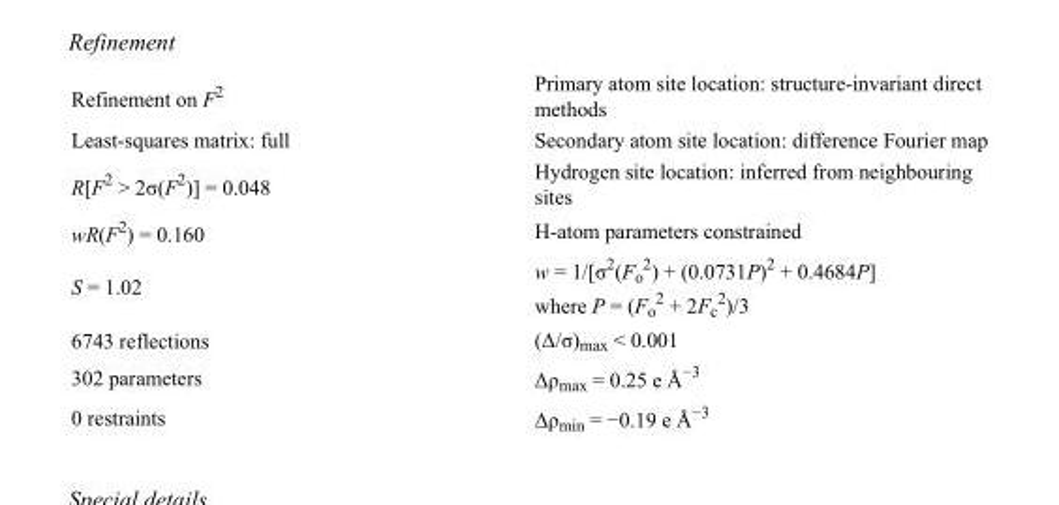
<table><tbody><tr><td>Refinement on F<sup>2</sup></td><td>Primary atom site location: structure-invariant direct methods</td></tr><tr><td>Least-squares matrix: full</td><td>Secondary atom site location: difference Fourier map</td></tr><tr><td>R[F<sup>2</sup> &gt; 2σ(F<sup>2</sup>)] = 0.048</td><td>Hydrogen site location: inferred from neighbouring sites</td></tr><tr><td>wR(F<sup>2</sup>) = 0.160</td><td>H-atom parameters constrained</td></tr><tr><td>S = 1.02</td><td>w = 1/[σ<sup>2</sup>(F<sub>o</sub> <sup>2</sup>) + (0.0731P)<sup>2</sup> + 0.4684P] where P = (F<sub>o</sub> <sup>2</sup> + 2F<sub>c</sub> <sup>2</sup>)/3</td></tr><tr><td>6743 reflections</td><td>(Δ/σ)<sub>max</sub> &lt; 0.001</td></tr><tr><td>302 parameters</td><td>Δρ<sub>max</sub> = 0.25 e Å<sup>−3</sup></td></tr><tr><td>0 restraints</td><td>Δρ<sub>min</sub> = −0.19 e Å<sup>−3</sup></td></tr></tbody></table>